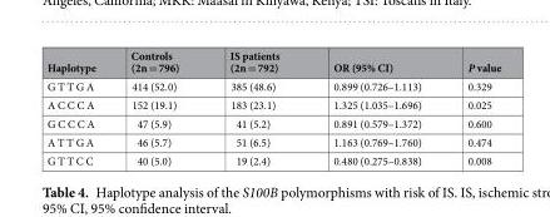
<table><thead><tr><td>Haplotype</td><td>Controls (2n = 796)</td><td>IS patients (2n = 792)</td><td>OR (95% CI)</td><td>P value</td></tr></thead><tbody><tr><td>G T T G A</td><td>414 (52.0)</td><td>385 (48.6)</td><td>0.899 (0.726–1.113)</td><td>0.329</td></tr><tr><td>A C C C A</td><td>152 (19.1)</td><td>183 (23.1)</td><td>1.325 (1.035–1.696)</td><td>0.025</td></tr><tr><td>G C C C A</td><td>47 (5.9)</td><td>41 (5.2)</td><td>0.891 (0.579–1.372)</td><td>0.600</td></tr><tr><td>A T T G A</td><td>46 (5.7)</td><td>51 (6.5)</td><td>1.163 (0.769–1.760)</td><td>0.474</td></tr><tr><td>G T T C C</td><td>40 (5.0)</td><td>19 (2.4)</td><td>0.480 (0.275–0.838)</td><td>0.008</td></tr></tbody></table>